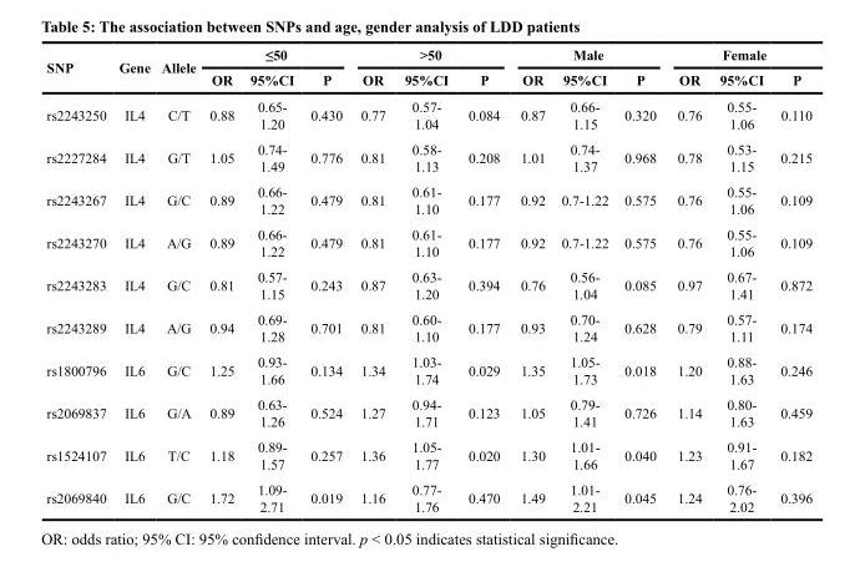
<table><thead><tr><td rowspan="2">SNP</td><td rowspan="2">Gene</td><td rowspan="2">Allele</td><td colspan="3">≤50</td><td colspan="3">&gt;50</td><td colspan="3">Male</td><td colspan="3">Female</td></tr><tr><td>OR</td><td>95%CI</td><td>P</td><td>OR</td><td>95%CI</td><td>P</td><td>OR</td><td>95%CI</td><td>P</td><td>OR</td><td>95%CI</td><td>P</td></tr></thead><tbody><tr><td>rs2243250</td><td>IL4</td><td>C/T</td><td>0.88</td><td>0.65- 1.20</td><td>0.430</td><td>0.77</td><td>0.57- 1.04</td><td>0.084</td><td>0.87</td><td>0.66- 1.15</td><td>0.320</td><td>0.76</td><td>0.55- 1.06</td><td>0.110</td></tr><tr><td>rs2227284</td><td>IL4</td><td>G/T</td><td>1.05</td><td>0.74- 1.49</td><td>0.776</td><td>0.81</td><td>0.58- 1.13</td><td>0.208</td><td>1.01</td><td>0.74- 1.37</td><td>0.968</td><td>0.78</td><td>0.53- 1.15</td><td>0.215</td></tr><tr><td>rs2243267</td><td>IL4</td><td>G/C</td><td>0.89</td><td>0.66- 1.22</td><td>0.479</td><td>0.81</td><td>0.61- 1.10</td><td>0.177</td><td>0.92</td><td>0.7-1.22</td><td>0.575</td><td>0.76</td><td>0.55- 1.06</td><td>0.109</td></tr><tr><td>rs2243270</td><td>IL4</td><td>A/G</td><td>0.89</td><td>0.66- 1.22</td><td>0.479</td><td>0.81</td><td>0.61- 1.10</td><td>0.177</td><td>0.92</td><td>0.7-1.22</td><td>0.575</td><td>0.76</td><td>0.55- 1.06</td><td>0.109</td></tr><tr><td>rs2243283</td><td>IL4</td><td>G/C</td><td>0.81</td><td>0.57- 1.15</td><td>0.243</td><td>0.87</td><td>0.63- 1.20</td><td>0.394</td><td>0.76</td><td>0.56- 1.04</td><td>0.085</td><td>0.97</td><td>0.67- 1.41</td><td>0.872</td></tr><tr><td>rs2243289</td><td>IL4</td><td>A/G</td><td>0.94</td><td>0.69- 1.28</td><td>0.701</td><td>0.81</td><td>0.60- 1.10</td><td>0.177</td><td>0.93</td><td>0.70- 1.24</td><td>0.628</td><td>0.79</td><td>0.57- 1.11</td><td>0.174</td></tr><tr><td>rs1800796</td><td>IL6</td><td>G/C</td><td>1.25</td><td>0.93- 1.66</td><td>0.134</td><td>1.34</td><td>1.03- 1.74</td><td>0.029</td><td>1.35</td><td>1.05- 1.73</td><td>0.018</td><td>1.20</td><td>0.88- 1.63</td><td>0.246</td></tr><tr><td>rs2069837</td><td>IL6</td><td>G/A</td><td>0.89</td><td>0.63- 1.26</td><td>0.524</td><td>1.27</td><td>0.94- 1.71</td><td>0.123</td><td>1.05</td><td>0.79- 1.41</td><td>0.726</td><td>1.14</td><td>0.80- 1.63</td><td>0.459</td></tr><tr><td>rs1524107</td><td>IL6</td><td>T/C</td><td>1.18</td><td>0.89- 1.57</td><td>0.257</td><td>1.36</td><td>1.05- 1.77</td><td>0.020</td><td>1.30</td><td>1.01- 1.66</td><td>0.040</td><td>1.23</td><td>0.91- 1.67</td><td>0.182</td></tr><tr><td>rs2069840</td><td>IL6</td><td>G/C</td><td>1.72</td><td>1.09- 2.71</td><td>0.019</td><td>1.16</td><td>0.77- 1.76</td><td>0.470</td><td>1.49</td><td>1.01- 2.21</td><td>0.045</td><td>1.24</td><td>0.76- 2.02</td><td>0.396</td></tr></tbody></table>